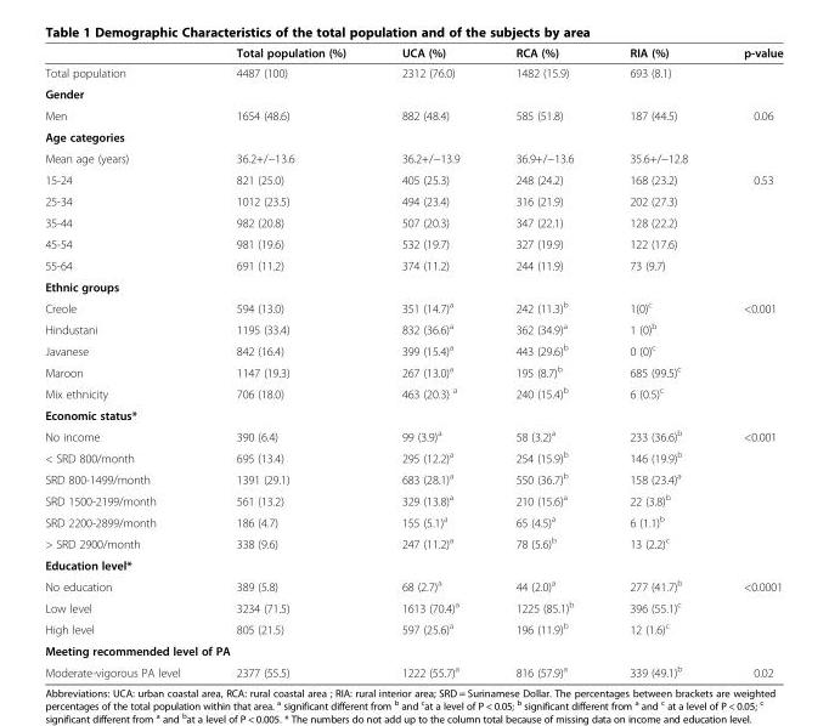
<table><thead><tr><td></td><td>Total population (%)</td><td>UCA (%)</td><td>RCA (%)</td><td>RIA (%)</td><td>p-value</td></tr></thead><tbody><tr><td>Total population</td><td>4487 (100)</td><td>2312 (76.0)</td><td>1482 (15.9)</td><td>693 (8.1)</td><td></td></tr><tr><td colspan="6">Gender</td></tr><tr><td>Men</td><td>1654 (48.6)</td><td>882 (48.4)</td><td>585 (51.8)</td><td>187 (44.5)</td><td>0.06</td></tr><tr><td colspan="6">Age categories</td></tr><tr><td>Mean age (years)</td><td>36.2+/−13.6</td><td>36.2+/−13.9</td><td>36.9+/−13.6</td><td>35.6+/−12.8</td><td></td></tr><tr><td>15-24</td><td>821 (25.0)</td><td>405 (25.3)</td><td>248 (24.2)</td><td>168 (23.2)</td><td>0.53</td></tr><tr><td>25-34</td><td>1012 (23.5)</td><td>494 (23.4)</td><td>316 (21.9)</td><td>202 (27.3)</td><td></td></tr><tr><td>35-44</td><td>982 (20.8)</td><td>507 (20.3)</td><td>347 (22.1)</td><td>128 (22.2)</td><td></td></tr><tr><td>45-54</td><td>981 (19.6)</td><td>532 (19.7)</td><td>327 (19.9)</td><td>122 (17.6)</td><td></td></tr><tr><td>55-64</td><td>691 (11.2)</td><td>374 (11.2)</td><td>244 (11.9)</td><td>73 (9.7)</td><td></td></tr><tr><td colspan="6">Ethnic groups</td></tr><tr><td>Creole</td><td>594 (13.0)</td><td>351 (14.7)<sup>a</sup></td><td>242 (11.3)<sup>b</sup></td><td>1(0)<sup>c</sup></td><td>&lt;0.001</td></tr><tr><td>Hindustani</td><td>1195 (33.4)</td><td>832 (36.6)<sup>a</sup></td><td>362 (34.9)<sup>a</sup></td><td>1 (0)<sup>b</sup></td><td></td></tr><tr><td>Javanese</td><td>842 (16.4)</td><td>399 (15.4)<sup>a</sup></td><td>443 (29.6)<sup>b</sup></td><td>0 (0)<sup>c</sup></td><td></td></tr><tr><td>Maroon</td><td>1147 (19.3)</td><td>267 (13.0)<sup>a</sup></td><td>195 (8.7)<sup>b</sup></td><td>685 (99.5)<sup>c</sup></td><td></td></tr><tr><td>Mix ethnicity</td><td>706 (18.0)</td><td>463 (20.3) <sup>a</sup></td><td>240 (15.4)<sup>b</sup></td><td>6 (0.5)<sup>c</sup></td><td></td></tr><tr><td colspan="6">Economic status*</td></tr><tr><td>No income</td><td>390 (6.4)</td><td>99 (3.9)<sup>a</sup></td><td>58 (3.2)<sup>a</sup></td><td>233 (36.6)<sup>b</sup></td><td>&lt;0.001</td></tr><tr><td>&lt; SRD 800/month</td><td>695 (13.4)</td><td>295 (12.2)<sup>a</sup></td><td>254 (15.9)<sup>b</sup></td><td>146 (19.9)<sup>b</sup></td><td></td></tr><tr><td>SRD 800-1499/month</td><td>1391 (29.1)</td><td>683 (28.1)<sup>a</sup></td><td>550 (36.7)<sup>b</sup></td><td>158 (23.4)<sup>a</sup></td><td></td></tr><tr><td>SRD 1500-2199/month</td><td>561 (13.2)</td><td>329 (13.8)<sup>a</sup></td><td>210 (15.6)<sup>a</sup></td><td>22 (3.8)<sup>b</sup></td><td></td></tr><tr><td>SRD 2200-2899/month</td><td>186 (4.7)</td><td>155 (5.1)<sup>a</sup></td><td>65 (4.5)<sup>a</sup></td><td>6 (1.1)<sup>b</sup></td><td></td></tr><tr><td>&gt; SRD 2900/month</td><td>338 (9.6)</td><td>247 (11.2)<sup>a</sup></td><td>78 (5.6)<sup>b</sup></td><td>13 (2.2)<sup>c</sup></td><td></td></tr><tr><td colspan="6">Education level*</td></tr><tr><td>No education</td><td>389 (5.8)</td><td>68 (2.7)<sup>a</sup></td><td>44 (2.0)<sup>a</sup></td><td>277 (41.7)<sup>b</sup></td><td>&lt;0.0001</td></tr><tr><td>Low level</td><td>3234 (71.5)</td><td>1613 (70.4)<sup>a</sup></td><td>1225 (85.1)<sup>b</sup></td><td>396 (55.1)<sup>c</sup></td><td></td></tr><tr><td>High level</td><td>805 (21.5)</td><td>597 (25.6)<sup>a</sup></td><td>196 (11.9)<sup>b</sup></td><td>12 (1.6)<sup>c</sup></td><td></td></tr><tr><td colspan="6">Meeting recommended level of PA</td></tr><tr><td>Moderate-vigorous PA level</td><td>2377 (55.5)</td><td>1222 (55.7)<sup>a</sup></td><td>816 (57.9)<sup>a</sup></td><td>339 (49.1)<sup>b</sup></td><td>0.02</td></tr></tbody></table>